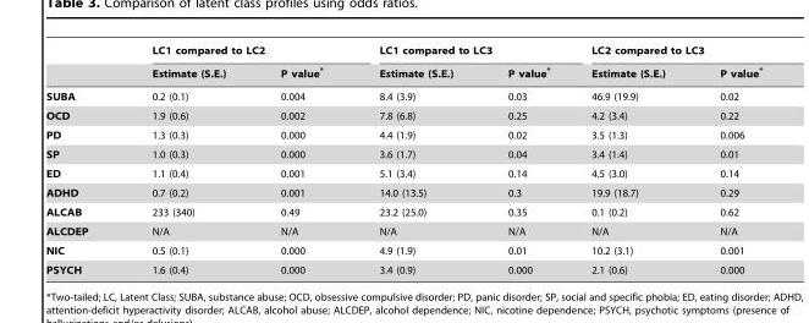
<table><thead><tr><td rowspan="2"></td><td colspan="2">LC1 compared to LC2</td><td colspan="2">LC1 compared to LC3</td><td colspan="2">LC2 compared to LC3</td></tr><tr><td>Estimate (S.E.)</td><td>P value*</td><td>Estimate (S.E.)</td><td>P value*</td><td>Estimate (S.E.)</td><td>P value*</td></tr></thead><tbody><tr><td>SUBA</td><td>0.2 (0.1)</td><td>0.004</td><td>8.4 (3.9)</td><td>0.03</td><td>46.9 (19.9)</td><td>0.02</td></tr><tr><td>OCD</td><td>1.9 (0.6)</td><td>0.002</td><td>7.8 (6.8)</td><td>0.25</td><td>4.2 (3.4)</td><td>0.22</td></tr><tr><td>PD</td><td>1.3 (0.3)</td><td>0.000</td><td>4.4 (1.9)</td><td>0.02</td><td>3.5 (1.3)</td><td>0.006</td></tr><tr><td>SP</td><td>1.0 (0.3)</td><td>0.000</td><td>3.6 (1.7)</td><td>0.04</td><td>3.4 (1.4)</td><td>0.01</td></tr><tr><td>ED</td><td>1.1 (0.4)</td><td>0.001</td><td>5.1 (3.4)</td><td>0.14</td><td>4.5 (3.0)</td><td>0.14</td></tr><tr><td>ADHD</td><td>0.7 (0.2)</td><td>0.001</td><td>14.0 (13.5)</td><td>0.3</td><td>19.9 (18.7)</td><td>0.29</td></tr><tr><td>ALCAB</td><td>233 (340)</td><td>0.49</td><td>23.2 (25.0)</td><td>0.35</td><td>0.1 (0.2)</td><td>0.62</td></tr><tr><td>ALCDEP</td><td>N/A</td><td>N/A</td><td>N/A</td><td>N/A</td><td>N/A</td><td>N/A</td></tr><tr><td>NIC</td><td>0.5 (0.1)</td><td>0.000</td><td>4.9 (1.9)</td><td>0.01</td><td>10.2 (3.1)</td><td>0.001</td></tr><tr><td>PSYCH</td><td>1.6 (0.4)</td><td>0.000</td><td>3.4 (0.9)</td><td>0.000</td><td>2.1 (0.6)</td><td>0.000</td></tr></tbody></table>